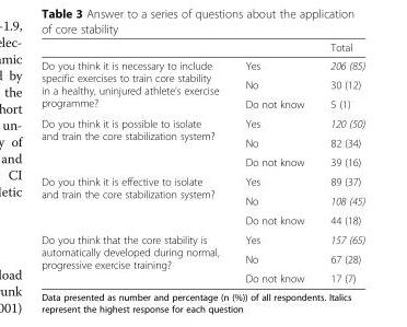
<table><thead><tr><td></td><td></td><td>Total</td></tr></thead><tbody><tr><td rowspan="3">Do you think it is necessary to include specific exercises to train core stability in a healthy, uninjured athlete’s exercise programme?</td><td>Yes</td><td>206 (85)</td></tr><tr><td>No</td><td>30 (12)</td></tr><tr><td>Do not know</td><td>5 (1)</td></tr><tr><td rowspan="3">Do you think it is possible to isolate and train the core stabilization system?</td><td>Yes</td><td>120 (50)</td></tr><tr><td>No</td><td>82 (34)</td></tr><tr><td>Do not know</td><td>39 (16)</td></tr><tr><td rowspan="3">Do you think it is effective to isolate and train the core stabilization system?</td><td>Yes</td><td>89 (37)</td></tr><tr><td>No</td><td>108 (45)</td></tr><tr><td>Do not know</td><td>44 (18)</td></tr><tr><td rowspan="3">Do you think that the core stability is automatically developed during normal, progressive exercise training?</td><td>Yes</td><td>157 (65)</td></tr><tr><td>No</td><td>67 (28)</td></tr><tr><td>Do not know</td><td>17 (7)</td></tr></tbody></table>